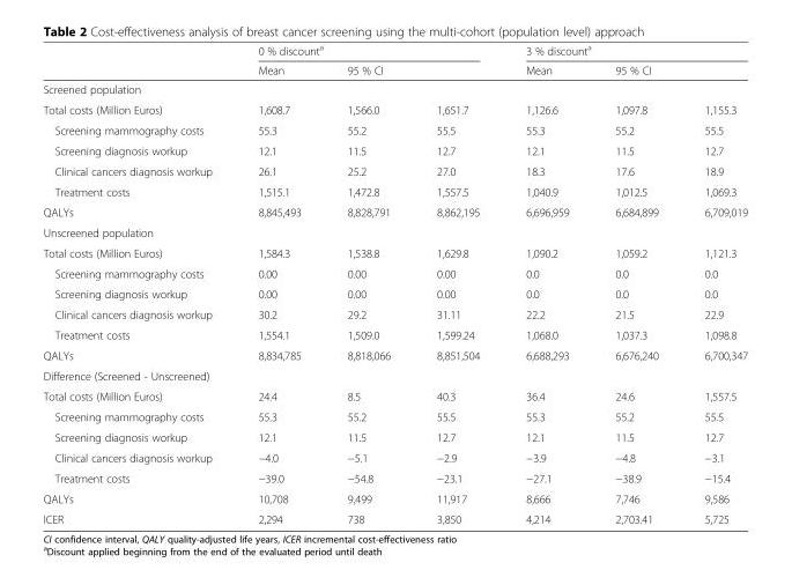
<table><thead><tr><td rowspan="3">Screened population</td><td colspan="3">0 % discount<sup>a</sup></td><td colspan="3">3 % discount<sup>a</sup></td></tr><tr><td rowspan="2">Mean</td><td colspan="2">95 % CI</td><td rowspan="2">Mean</td><td colspan="2">95 % CI</td></tr><tr><td></td><td></td><td></td><td></td></tr></thead><tbody><tr><td>Total costs (Million Euros)</td><td>1,608.7</td><td>1,566.0</td><td>1,651.7</td><td>1,126.6</td><td>1,097.8</td><td>1,155.3</td></tr><tr><td>Screening mammography costs</td><td>55.3</td><td>55.2</td><td>55.5</td><td>55.3</td><td>55.2</td><td>55.5</td></tr><tr><td>Screening diagnosis workup</td><td>12.1</td><td>11.5</td><td>12.7</td><td>12.1</td><td>11.5</td><td>12.7</td></tr><tr><td>Clinical cancers diagnosis workup</td><td>26.1</td><td>25.2</td><td>27.0</td><td>18.3</td><td>17.6</td><td>18.9</td></tr><tr><td>Treatment costs</td><td>1,515.1</td><td>1,472.8</td><td>1,557.5</td><td>1,040.9</td><td>1,012.5</td><td>1,069.3</td></tr><tr><td>QALYs</td><td>8,845,493</td><td>8,828,791</td><td>8,862,195</td><td>6,696,959</td><td>6,684,899</td><td>6,709,019</td></tr><tr><td colspan="7">Unscreened population</td></tr><tr><td>Total costs (Million Euros)</td><td>1,584.3</td><td>1,538.8</td><td>1,629.8</td><td>1,090.2</td><td>1,059.2</td><td>1,121.3</td></tr><tr><td>Screening mammography costs</td><td>0.00</td><td>0.00</td><td>0.00</td><td>0.0</td><td>0.0</td><td>0.0</td></tr><tr><td>Screening diagnosis workup</td><td>0.00</td><td>0.00</td><td>0.00</td><td>0.0</td><td>0.0</td><td>0.0</td></tr><tr><td>Clinical cancers diagnosis workup</td><td>30.2</td><td>29.2</td><td>31.11</td><td>22.2</td><td>21.5</td><td>22.9</td></tr><tr><td>Treatment costs</td><td>1,554.1</td><td>1,509.0</td><td>1,599.24</td><td>1,068.0</td><td>1,037.3</td><td>1,098.8</td></tr><tr><td>QALYs</td><td>8,834,785</td><td>8,818,066</td><td>8,851,504</td><td>6,688,293</td><td>6,676,240</td><td>6,700,347</td></tr><tr><td colspan="7">Difference (Screened - Unscreened)</td></tr><tr><td>Total costs (Million Euros)</td><td>24.4</td><td>8.5</td><td>40.3</td><td>36.4</td><td>24.6</td><td>1,557.5</td></tr><tr><td>Screening mammography costs</td><td>55.3</td><td>55.2</td><td>55.5</td><td>55.3</td><td>55.2</td><td>55.5</td></tr><tr><td>Screening diagnosis workup</td><td>12.1</td><td>11.5</td><td>12.7</td><td>12.1</td><td>11.5</td><td>12.7</td></tr><tr><td>Clinical cancers diagnosis workup</td><td>−4.0</td><td>−5.1</td><td>−2.9</td><td>−3.9</td><td>−4.8</td><td>−3.1</td></tr><tr><td>Treatment costs</td><td>−39.0</td><td>−54.8</td><td>−23.1</td><td>−27.1</td><td>−38.9</td><td>−15.4</td></tr><tr><td>QALYs</td><td>10,708</td><td>9,499</td><td>11,917</td><td>8,666</td><td>7,746</td><td>9,586</td></tr><tr><td>ICER</td><td>2,294</td><td>738</td><td>3,850</td><td>4,214</td><td>2,703.41</td><td>5,725</td></tr></tbody></table>